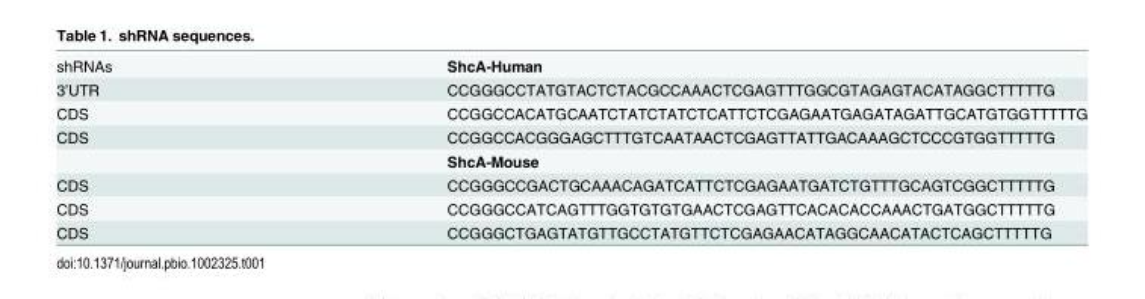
<table><tbody><tr><td>shRNAs</td><td>ShcA-Human</td></tr><tr><td>3’UTR</td><td>CCGGGCCTATGTACTCTACGCCAAACTCGAGTTTGGCGTAGAGTACATAGGCTTTTTG</td></tr><tr><td>CDS</td><td>CCGGCCACATGCAATCTATCTATCTCATTCTCGAGAATGAGATAGATTGCATGTGGTTTTTG</td></tr><tr><td rowspan="2">CDS</td><td>CCGGCCACGGGAGCTTTGTCAATAACTCGAGTTATTGACAAAGCTCCCGTGGTTTTTG</td></tr><tr><td>ShcA-Mouse</td></tr><tr><td>CDS</td><td>CCGGGCCGACTGCAAACAGATCATTCTCGAGAATGATCTGTTTGCAGTCGGCTTTTTG</td></tr><tr><td>CDS</td><td>CCGGGCCATCAGTTTGGTGTGTGAACTCGAGTTCACACACCAAACTGATGGCTTTTTG</td></tr><tr><td>CDS</td><td>CCGGGCTGAGTATGTTGCCTATGTTCTCGAGAACATAGGCAACATACTCAGCTTTTTG</td></tr></tbody></table>